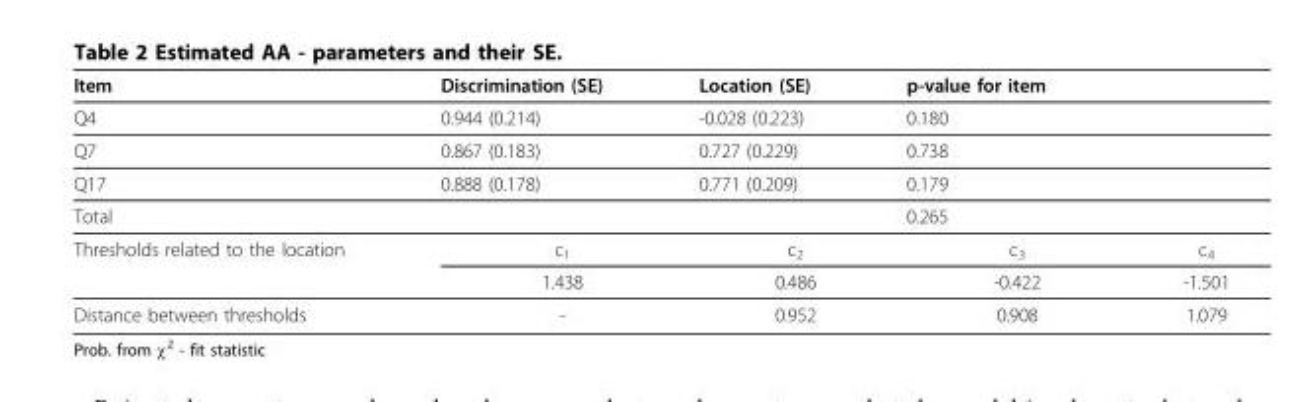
<table><thead><tr><td>Item</td><td>Discrimination (SE)</td><td>Location (SE)</td><td>p-value for item</td><td></td></tr></thead><tbody><tr><td>Q4</td><td>0.944 (0.214)</td><td>-0.028 (0.223)</td><td>0.180</td><td></td></tr><tr><td>Q7</td><td>0.867 (0.183)</td><td>0.727 (0.229)</td><td>0.738</td><td></td></tr><tr><td>Q17</td><td>0.888 (0.178)</td><td>0.771 (0.209)</td><td>0.179</td><td></td></tr><tr><td>Total</td><td></td><td></td><td>0.265</td><td></td></tr><tr><td rowspan="2">Thresholds related to the location</td><td>c<sub>1</sub></td><td>c<sub>2</sub></td><td>c<sub>3</sub></td><td>c<sub>4</sub></td></tr><tr><td>1.438</td><td>0.486</td><td>-0.422</td><td>-1.501</td></tr><tr><td>Distance between thresholds</td><td>-</td><td>0.952</td><td>0.908</td><td>1.079</td></tr></tbody></table>